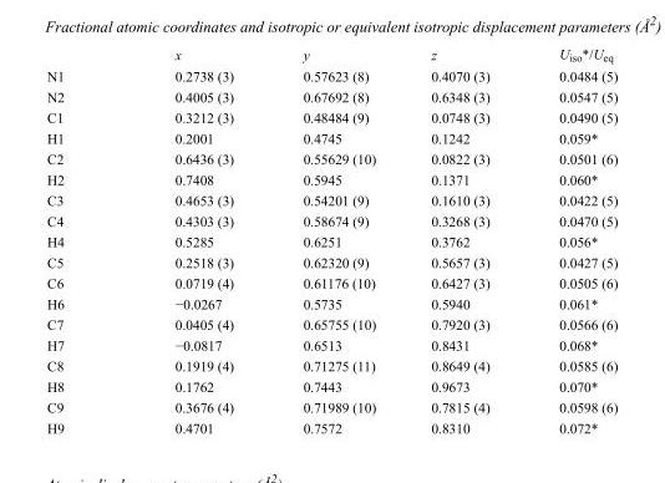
<table><thead><tr><td></td><td>x</td><td>y</td><td>z</td><td>U<sub>iso</sub>*/U<sub>eq</sub></td></tr></thead><tbody><tr><td>N1</td><td>0.2738 (3)</td><td>0.57623 (8)</td><td>0.4070 (3)</td><td>0.0484 (5)</td></tr><tr><td>N2</td><td>0.4005 (3)</td><td>0.67692 (8)</td><td>0.6348 (3)</td><td>0.0547 (5)</td></tr><tr><td>C1</td><td>0.3212 (3)</td><td>0.48484 (9)</td><td>0.0748 (3)</td><td>0.0490 (5)</td></tr><tr><td>H1</td><td>0.2001</td><td>0.4745</td><td>0.1242</td><td>0.059*</td></tr><tr><td>C2</td><td>0.6436 (3)</td><td>0.55629 (10)</td><td>0.0822 (3)</td><td>0.0501 (6)</td></tr><tr><td>H2</td><td>0.7408</td><td>0.5945</td><td>0.1371</td><td>0.060*</td></tr><tr><td>C3</td><td>0.4653 (3)</td><td>0.54201 (9)</td><td>0.1610 (3)</td><td>0.0422 (5)</td></tr><tr><td>C4</td><td>0.4303 (3)</td><td>0.58674 (9)</td><td>0.3268 (3)</td><td>0.0470 (5)</td></tr><tr><td>H4</td><td>0.5285</td><td>0.6251</td><td>0.3762</td><td>0.056*</td></tr><tr><td>C5</td><td>0.2518 (3)</td><td>0.62320 (9)</td><td>0.5657 (3)</td><td>0.0427 (5)</td></tr><tr><td>C6</td><td>0.0719 (4)</td><td>0.61176 (10)</td><td>0.6427 (3)</td><td>0.0505 (6)</td></tr><tr><td>H6</td><td>−0.0267</td><td>0.5735</td><td>0.5940</td><td>0.061*</td></tr><tr><td>C7</td><td>0.0405 (4)</td><td>0.65755 (10)</td><td>0.7920 (3)</td><td>0.0566 (6)</td></tr><tr><td>H7</td><td>−0.0817</td><td>0.6513</td><td>0.8431</td><td>0.068*</td></tr><tr><td>C8</td><td>0.1919 (4)</td><td>0.71275 (11)</td><td>0.8649 (4)</td><td>0.0585 (6)</td></tr><tr><td>H8</td><td>0.1762</td><td>0.7443</td><td>0.9673</td><td>0.070*</td></tr><tr><td>C9</td><td>0.3676 (4)</td><td>0.71989 (10)</td><td>0.7815 (4)</td><td>0.0598 (6)</td></tr><tr><td>H9</td><td>0.4701</td><td>0.7572</td><td>0.8310</td><td>0.072*</td></tr></tbody></table>